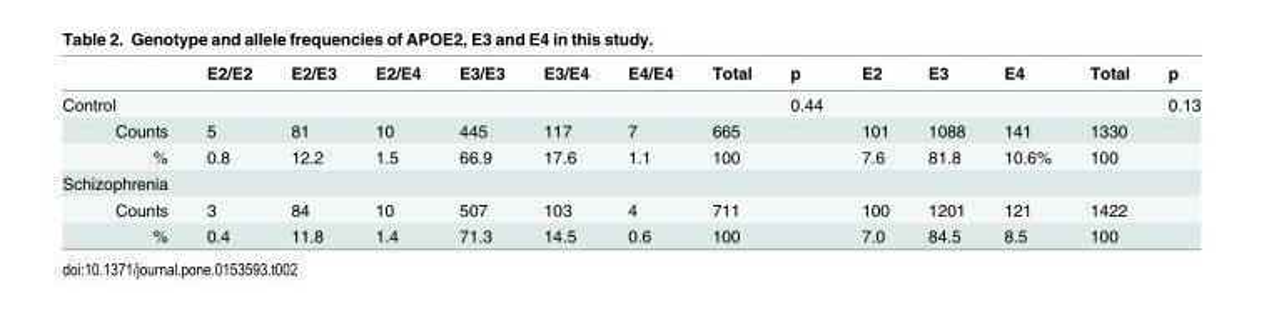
<table><thead><tr><td></td><td>E2/E2</td><td>E2/E3</td><td>E2/E4</td><td>E3/E3</td><td>E3/E4</td><td>E4/E4</td><td>Total</td><td>p</td><td>E2</td><td>E3</td><td>E4</td><td>Total</td><td>p</td></tr></thead><tbody><tr><td>Control</td><td></td><td></td><td></td><td></td><td></td><td></td><td></td><td>0.44</td><td></td><td></td><td></td><td></td><td>0.13</td></tr><tr><td>Counts</td><td>5</td><td>81</td><td>10</td><td>445</td><td>117</td><td>7</td><td>665</td><td></td><td>101</td><td>1088</td><td>141</td><td>1330</td><td></td></tr><tr><td>%</td><td>0.8</td><td>12.2</td><td>1.5</td><td>66.9</td><td>17.6</td><td>1.1</td><td>100</td><td></td><td>7.6</td><td>81.8</td><td>10.6%</td><td>100</td><td></td></tr><tr><td colspan="14">Schizophrenia</td></tr><tr><td>Counts</td><td>3</td><td>84</td><td>10</td><td>507</td><td>103</td><td>4</td><td>711</td><td></td><td>100</td><td>1201</td><td>121</td><td>1422</td><td></td></tr><tr><td>%</td><td>0.4</td><td>11.8</td><td>1.4</td><td>71.3</td><td>14.5</td><td>0.6</td><td>100</td><td></td><td>7.0</td><td>84.5</td><td>8.5</td><td>100</td><td></td></tr></tbody></table>